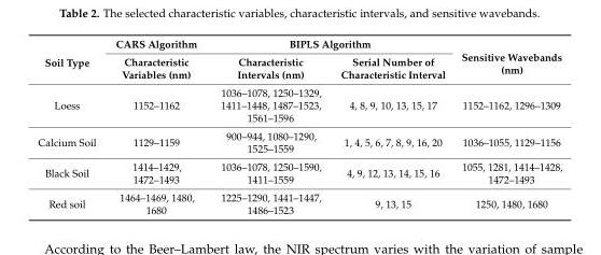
<table><thead><tr><td rowspan="2">Soil Type</td><td rowspan="2">CARS Algorithm Characteristic Variables (nm)</td><td colspan="2">BIPLS Algorithm</td><td rowspan="2">Sensitive Wavebands (nm)</td></tr><tr><td>Characteristic Intervals (nm)</td><td>Serial Number of Characteristic Interval</td></tr></thead><tbody><tr><td>Loess</td><td>1152–1162</td><td>1036–1078, 1250–1329, 1411–1448, 1487–1523, 1561–1596</td><td>4, 8, 9, 10, 13, 15, 17</td><td>1152–1162, 1296–1309</td></tr><tr><td>Calcium Soil</td><td>1129–1159</td><td>900–944, 1080–1290, 1525–1559</td><td>1, 4, 5, 6, 7, 8, 9, 16, 20</td><td>1036–1055, 1129–1156</td></tr><tr><td>Black Soil</td><td>1414–1429, 1472–1493</td><td>1036–1078, 1250–1590, 1411–1559</td><td>4, 9, 12, 13, 14, 15, 16</td><td>1055, 1281, 1414–1428, 1472–1493</td></tr><tr><td>Red soil</td><td>1464–1469, 1480, 1680</td><td>1225–1290, 1441–1447, 1486–1523</td><td>9, 13, 15</td><td>1250, 1480, 1680</td></tr></tbody></table>